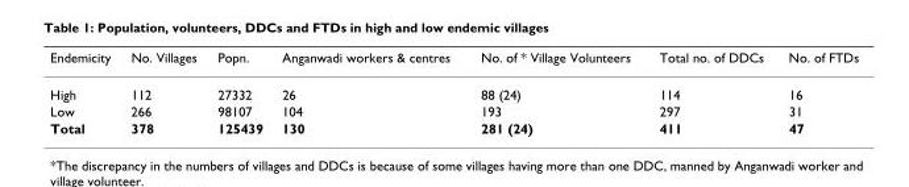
<table><thead><tr><td>Endemicity</td><td>No. Villages</td><td>Popn.</td><td>Anganwadi workers &amp; centres</td><td>No. of * Village Volunteers</td><td>Total no. of DDCs</td><td>No. of FTDs</td></tr></thead><tbody><tr><td>High</td><td>112</td><td>27332</td><td>26</td><td>88 (24)</td><td>114</td><td>16</td></tr><tr><td>Low</td><td>266</td><td>98107</td><td>104</td><td>193</td><td>297</td><td>31</td></tr><tr><td>Total</td><td>378</td><td>125439</td><td>130</td><td>281 (24)</td><td>411</td><td>47</td></tr></tbody></table>